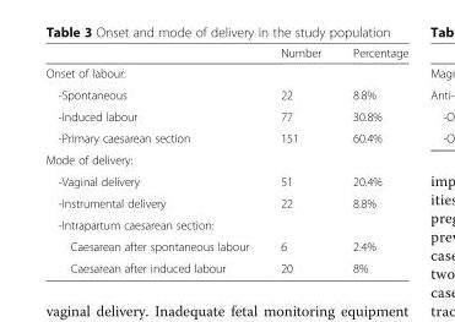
<table><thead><tr><td></td><td>Number</td><td>Percentage</td></tr></thead><tbody><tr><td colspan="3">Onset of labour:</td></tr><tr><td>-Spontaneous</td><td>22</td><td>8.8%</td></tr><tr><td>-Induced labour</td><td>77</td><td>30.8%</td></tr><tr><td>-Primary caesarean section</td><td>151</td><td>60.4%</td></tr><tr><td colspan="3">Mode of delivery:</td></tr><tr><td>-Vaginal delivery</td><td>51</td><td>20.4%</td></tr><tr><td>-Instrumental delivery</td><td>22</td><td>8.8%</td></tr><tr><td colspan="3">-Intrapartum caesarean section:</td></tr><tr><td>Caesarean after spontaneous labour</td><td>6</td><td>2.4%</td></tr><tr><td>Caesarean after induced labour</td><td>20</td><td>8%</td></tr></tbody></table>